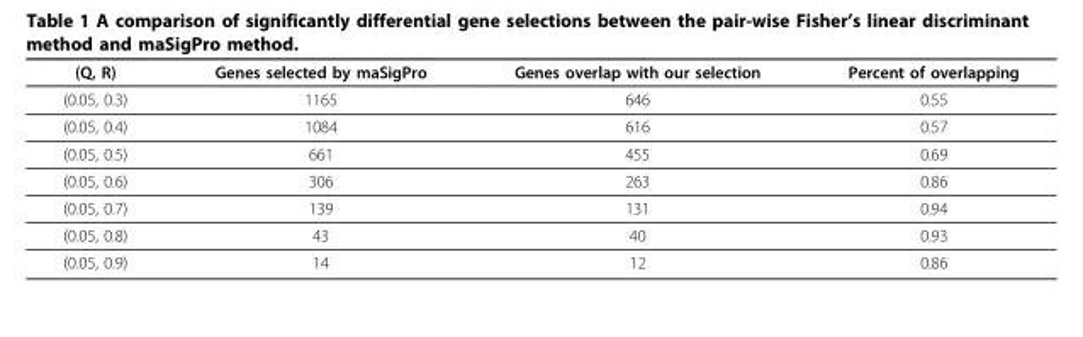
<table><thead><tr><td>(Q, R)</td><td>Genes selected by maSigPro</td><td>Genes overlap with our selection</td><td>Percent of overlapping</td></tr></thead><tbody><tr><td>(0.05, 0.3)</td><td>1165</td><td>646</td><td>0.55</td></tr><tr><td>(0.05, 0.4)</td><td>1084</td><td>616</td><td>0.57</td></tr><tr><td>(0.05, 0.5)</td><td>661</td><td>455</td><td>0.69</td></tr><tr><td>(0.05, 0.6)</td><td>306</td><td>263</td><td>0.86</td></tr><tr><td>(0.05, 0.7)</td><td>139</td><td>131</td><td>0.94</td></tr><tr><td>(0.05, 0.8)</td><td>43</td><td>40</td><td>0.93</td></tr><tr><td>(0.05, 0.9)</td><td>14</td><td>12</td><td>0.86</td></tr></tbody></table>